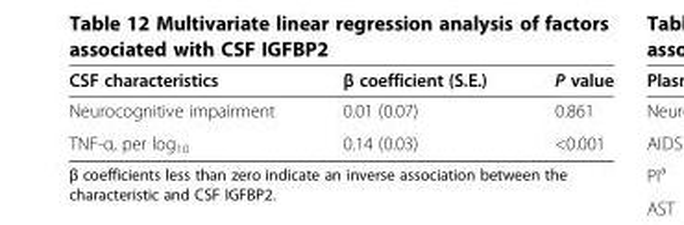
<table><thead><tr><td>CSF characteristics</td><td>β coefficient (S.E.)</td><td>P value</td></tr></thead><tbody><tr><td>Neurocognitive impairment</td><td>0.01 (0.07)</td><td>0.861</td></tr><tr><td>TNF-α, per log<sub>10</sub></td><td>0.14 (0.03)</td><td>&lt;0.001</td></tr></tbody></table>